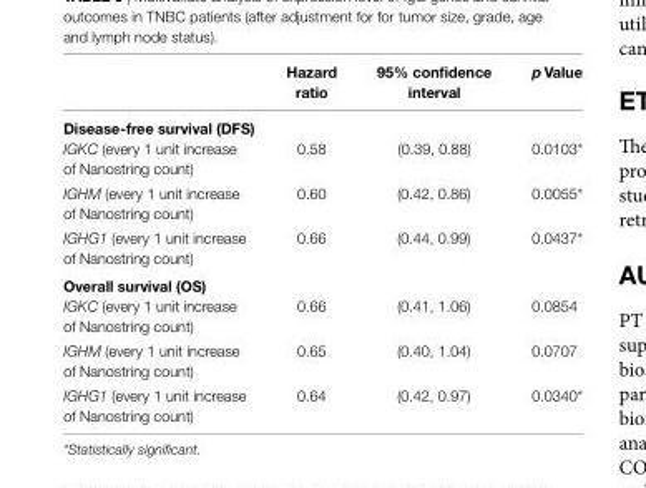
<table><thead><tr><td></td><td>hazard ratio</td><td>95% confidence interval</td><td>p Value</td></tr></thead><tbody><tr><td colspan="4">Disease-free survival (DFs)</td></tr><tr><td>IGKC (every 1 unit increase of Nanostring count)</td><td>0.58</td><td>(0.39, 0.88)</td><td>0.0103*</td></tr><tr><td>IGHM (every 1 unit increase of Nanostring count)</td><td>0.60</td><td>(0.42, 0.86)</td><td>0.0055*</td></tr><tr><td>IGHG1 (every 1 unit increase of Nanostring count)</td><td>0.66</td><td>(0.44, 0.99)</td><td>0.0437*</td></tr><tr><td colspan="4">Overall survival (Os)</td></tr><tr><td>IGKC (every 1 unit increase of Nanostring count)</td><td>0.66</td><td>(0.41, 1.06)</td><td>0.0854</td></tr><tr><td>IGHM (every 1 unit increase of Nanostring count)</td><td>0.65</td><td>(0.40, 1.04)</td><td>0.0707</td></tr><tr><td>IGHG1 (every 1 unit increase of Nanostring count)</td><td>0.64</td><td>(0.42, 0.97)</td><td>0.0340*</td></tr></tbody></table>